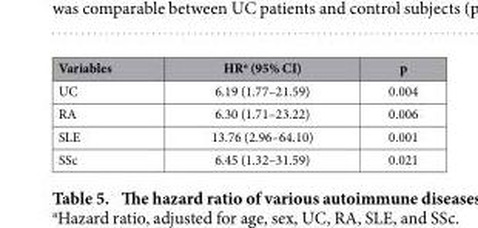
<table><thead><tr><td>Variables</td><td>HR<sup>a</sup> (95% CI)</td><td>p</td></tr></thead><tbody><tr><td>UC</td><td>6.19 (1.77–21.59)</td><td>0.004</td></tr><tr><td>RA</td><td>6.30 (1.71–23.22)</td><td>0.006</td></tr><tr><td>SLE</td><td>13.76 (2.96–64.10)</td><td>0.001</td></tr><tr><td>SSc</td><td>6.45 (1.32–31.59)</td><td>0.021</td></tr></tbody></table>